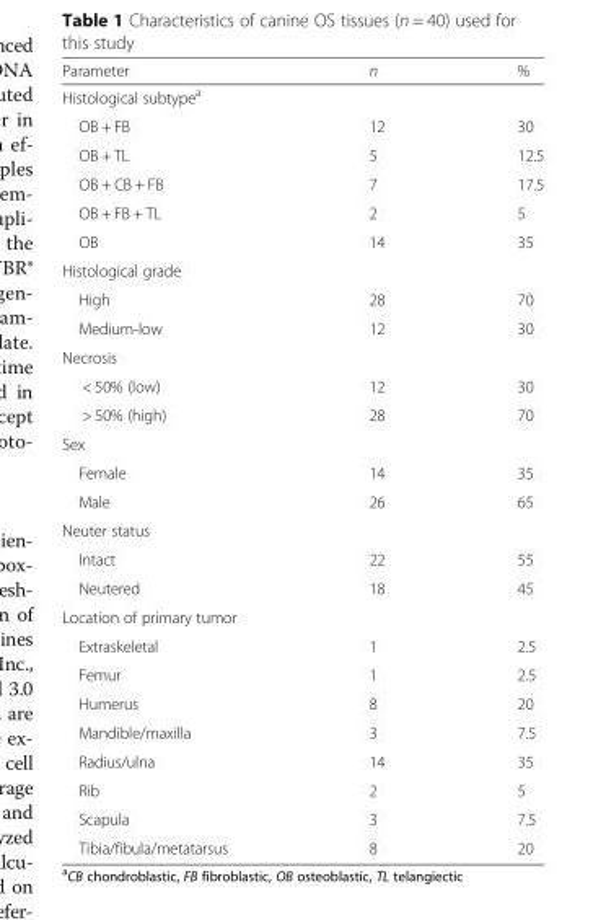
<table><thead><tr><td>Parameter</td><td>n</td><td>%</td></tr></thead><tbody><tr><td colspan="3">Histological subtype<sup>a</sup></td></tr><tr><td>OB + FB</td><td>12</td><td>30</td></tr><tr><td>OB + TL</td><td>5</td><td>12.5</td></tr><tr><td>OB + CB + FB</td><td>7</td><td>17.5</td></tr><tr><td>OB + FB + TL</td><td>2</td><td>5</td></tr><tr><td>OB</td><td>14</td><td>35</td></tr><tr><td colspan="3">Histological grade</td></tr><tr><td>High</td><td>28</td><td>70</td></tr><tr><td>Medium-low</td><td>12</td><td>30</td></tr><tr><td colspan="3">Necrosis</td></tr><tr><td>&lt; 50% (low)</td><td>12</td><td>30</td></tr><tr><td>&gt; 50% (high)</td><td>28</td><td>70</td></tr><tr><td colspan="3">Sex</td></tr><tr><td>Female</td><td>14</td><td>35</td></tr><tr><td>Male</td><td>26</td><td>65</td></tr><tr><td colspan="3">Neuter status</td></tr><tr><td>Intact</td><td>22</td><td>55</td></tr><tr><td>Neutered</td><td>18</td><td>45</td></tr><tr><td colspan="3">Location of primary tumor</td></tr><tr><td>Extraskeletal</td><td>1</td><td>2.5</td></tr><tr><td>Femur</td><td>1</td><td>2.5</td></tr><tr><td>Humerus</td><td>8</td><td>20</td></tr><tr><td>Mandible/maxilla</td><td>3</td><td>7.5</td></tr><tr><td>Radius/ulna</td><td>14</td><td>35</td></tr><tr><td>Rib</td><td>2</td><td>5</td></tr><tr><td>Scapula</td><td>3</td><td>7.5</td></tr><tr><td>Tibia/fibula/metatarsus</td><td>8</td><td>20</td></tr></tbody></table>